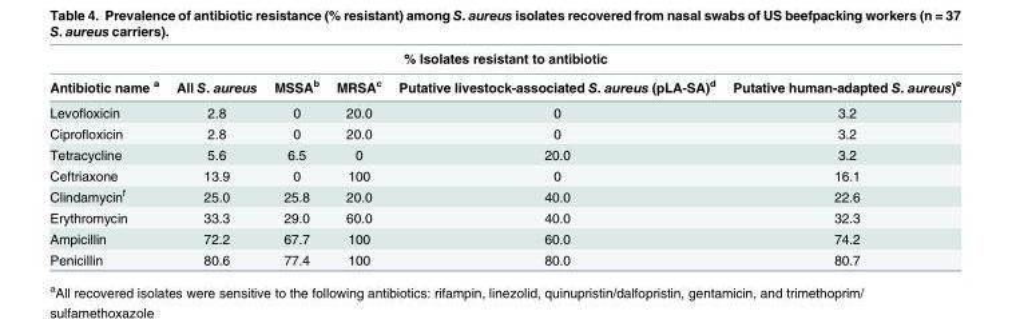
<table><thead><tr><td colspan="6">% Isolates resistant to antibiotic</td></tr><tr><td>Antibiotic name <sup>a</sup></td><td>All S. aureus</td><td>MSSA<sup>b</sup></td><td>MRSA<sup>c</sup></td><td>Putative livestock-associated S. aureus (pLA-SA)<sup>d</sup></td><td>Putative human-adapted S. aureus)<sup>e</sup></td></tr></thead><tbody><tr><td>Levofloxicin</td><td>2.8</td><td>0</td><td>20.0</td><td>0</td><td>3.2</td></tr><tr><td>Ciprofloxicin</td><td>2.8</td><td>0</td><td>20.0</td><td>0</td><td>3.2</td></tr><tr><td>Tetracycline</td><td>5.6</td><td>6.5</td><td>0</td><td>20.0</td><td>3.2</td></tr><tr><td>Ceftriaxone</td><td>13.9</td><td>0</td><td>100</td><td>0</td><td>16.1</td></tr><tr><td>Clindamycin<sup>f</sup></td><td>25.0</td><td>25.8</td><td>20.0</td><td>40.0</td><td>22.6</td></tr><tr><td>Erythromycin</td><td>33.3</td><td>29.0</td><td>60.0</td><td>40.0</td><td>32.3</td></tr><tr><td>Ampicillin</td><td>72.2</td><td>67.7</td><td>100</td><td>60.0</td><td>74.2</td></tr><tr><td>Penicillin</td><td>80.6</td><td>77.4</td><td>100</td><td>80.0</td><td>80.7</td></tr></tbody></table>